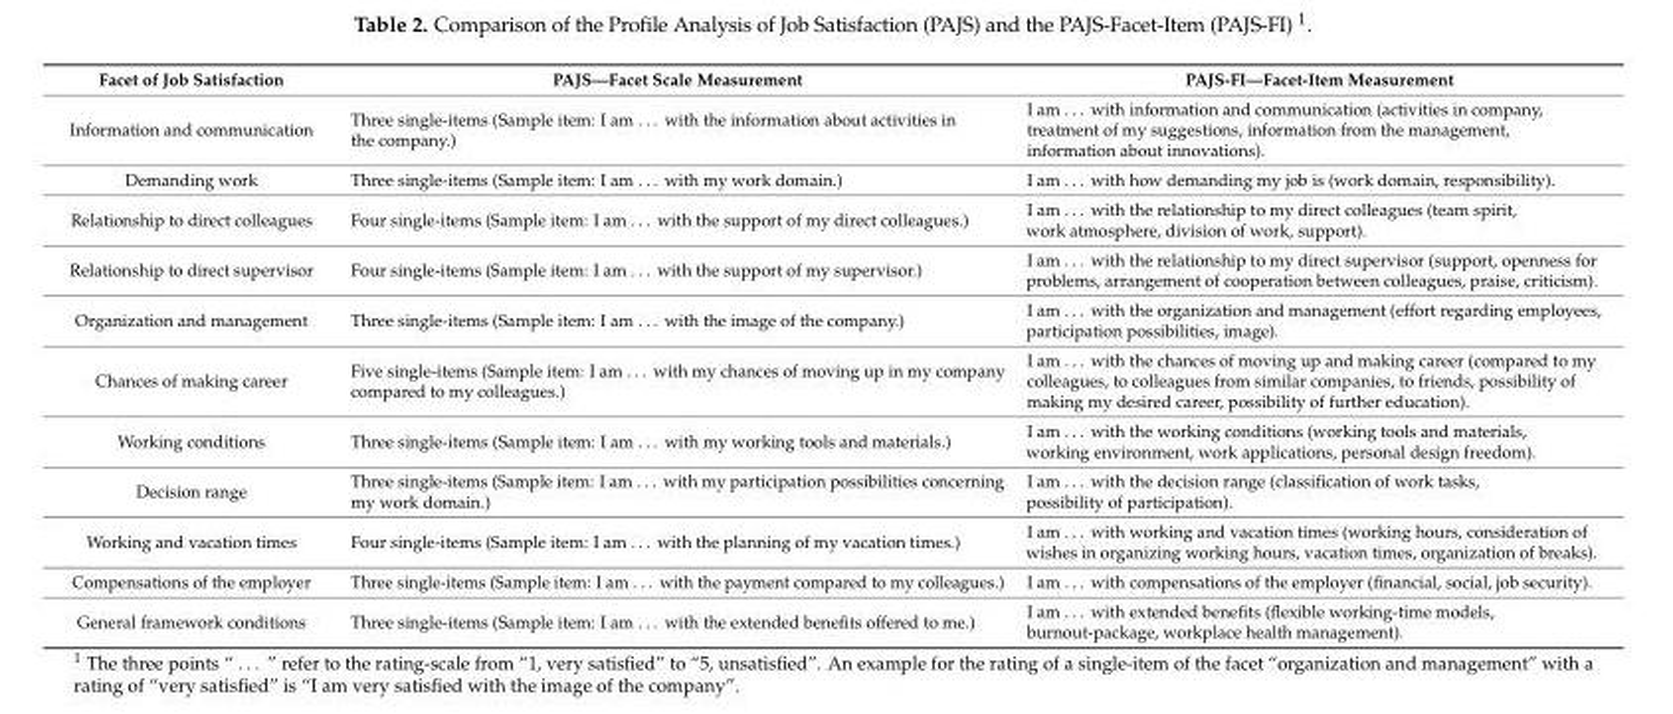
<table><thead><tr><td>Facet of Job Satisfaction</td><td>PAJS—Facet Scale Measurement</td><td>PAJS-FI—Facet-Item Measurement</td></tr></thead><tbody><tr><td>Information and communication</td><td>Three single-items (Sample item: I am . . . with the information about activities in the company.)</td><td>I am . . . with information and communication (activities in company, treatment of my suggestions, information from the management, information about innovations).</td></tr><tr><td>Demanding work</td><td>Three single-items (Sample item: I am . . . with my work domain.)</td><td>I am . . . with how demanding my job is (work domain, responsibility).</td></tr><tr><td>Relationship to direct colleagues</td><td>Four single-items (Sample item: I am . . . with the support of my direct colleagues.)</td><td>I am . . . with the relationship to my direct colleagues (team spirit, work atmosphere, division of work, support).</td></tr><tr><td>Relationship to direct supervisor</td><td>Four single-items (Sample item: I am . . . with the support of my supervisor.)</td><td>I am . . . with the relationship to my direct supervisor (support, openness for problems, arrangement of cooperation between colleagues, praise, criticism).</td></tr><tr><td>Organization and management</td><td>Three single-items (Sample item: I am . . . with the image of the company.)</td><td>I am . . . with the organization and management (effort regarding employees, participation possibilities, image).</td></tr><tr><td>Chances of making career</td><td>Five single-items (Sample item: I am . . . with my chances of moving up in my company compared to my colleagues.)</td><td>I am . . . with the chances of moving up and making career (compared to my colleagues, to colleagues from similar companies, to friends, possibility of making my desired career, possibility of further education).</td></tr><tr><td>Working conditions</td><td>Three single-items (Sample item: I am . . . with my working tools and materials.)</td><td>I am . . . with the working conditions (working tools and materials, working environment, work applications, personal design freedom).</td></tr><tr><td>Decision range</td><td>Three single-items (Sample item: I am . . . with my participation possibilities concerning my work domain.)</td><td>I am . . . with the decision range (classification of work tasks, possibility of participation).</td></tr><tr><td>Working and vacation times</td><td>Four single-items (Sample item: I am . . . with the planning of my vacation times.)</td><td>I am . . . with working and vacation times (working hours, consideration of wishes in organizing working hours, vacation times, organization of breaks).</td></tr><tr><td>Compensations of the employer</td><td>Three single-items (Sample item: I am . . . with the payment compared to my colleagues.)</td><td>I am . . . with compensations of the employer (financial, social, job security).</td></tr><tr><td>General framework conditions</td><td>Three single-items (Sample item: I am . . . with the extended benefits offered to me.)</td><td>I am . . . with extended benefits (flexible working-time models, burnout-package, workplace health management).</td></tr></tbody></table>